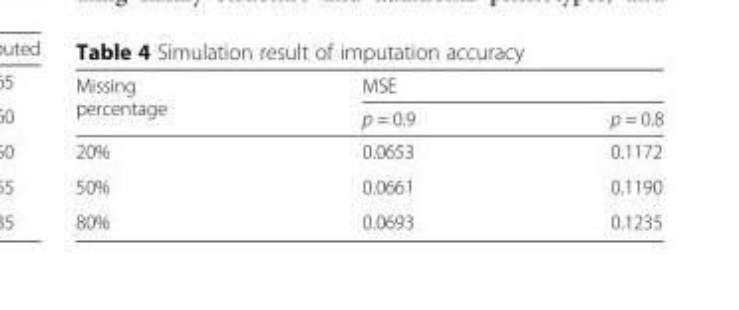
<table><thead><tr><td rowspan="2">Missing percentage</td><td colspan="2">MSE</td></tr><tr><td>p = 0.9</td><td>p = 0.8</td></tr></thead><tbody><tr><td>20%</td><td>0.0653</td><td>0.1172</td></tr><tr><td>50%</td><td>0.0661</td><td>0.1190</td></tr><tr><td>80%</td><td>0.0693</td><td>0.1235</td></tr></tbody></table>